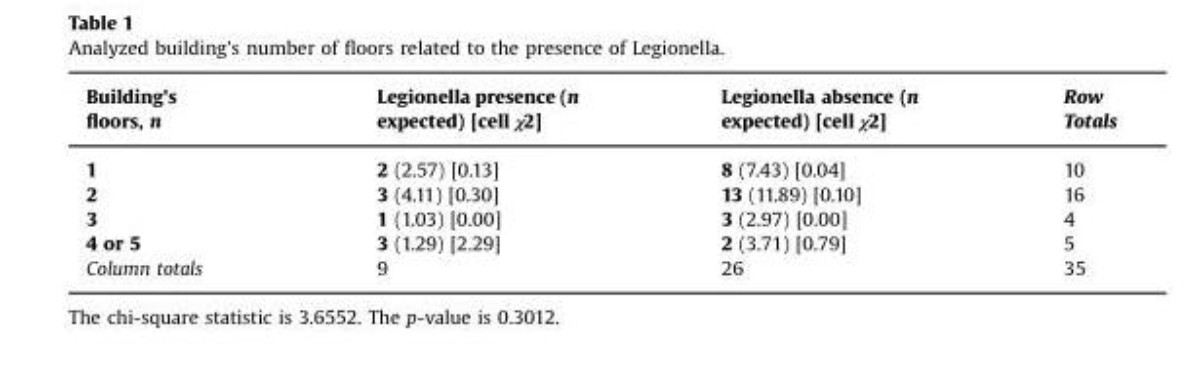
<table><thead><tr><td>Building&#x27;s floors, n</td><td>Legionella presence (n expected) [cell χ2]</td><td>Legionella absence (n expected) [cell χ2]</td><td>Row Totals</td></tr></thead><tbody><tr><td>1</td><td>2 (2.57) [0.13]</td><td>8 (7.43) [0.04]</td><td>10</td></tr><tr><td>2</td><td>3 (4.11) [0.30]</td><td>13 (11.89) [0.10]</td><td>16</td></tr><tr><td>3</td><td>1 (1.03) [0.00]</td><td>3 (2.97) [0.00]</td><td>4</td></tr><tr><td>4 or 5</td><td>3 (1.29) [2.29]</td><td>2 (3.71) [0.79]</td><td>5</td></tr><tr><td>Column totals</td><td>9</td><td>26</td><td>35</td></tr></tbody></table>